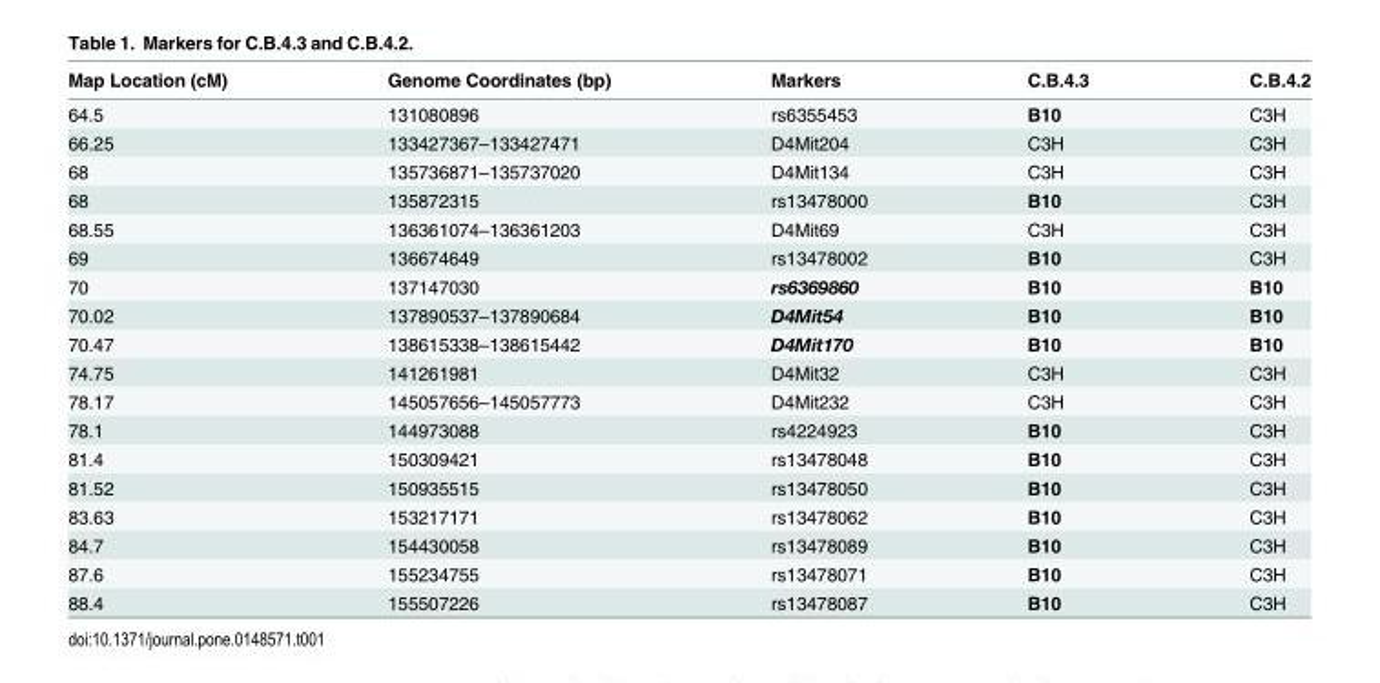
<table><thead><tr><td>Map Location (cM)</td><td>Genome Coordinates (bp)</td><td>Markers</td><td>C.B.4.3</td><td>C.B.4.2</td></tr></thead><tbody><tr><td>64.5</td><td>131080896</td><td>rs6355453</td><td>B10</td><td>C3H</td></tr><tr><td>66.25</td><td>133427367–133427471</td><td>D4Mit204</td><td>C3H</td><td>C3H</td></tr><tr><td>68</td><td>135736871–135737020</td><td>D4Mit134</td><td>C3H</td><td>C3H</td></tr><tr><td>68</td><td>135872315</td><td>rs13478000</td><td>B10</td><td>C3H</td></tr><tr><td>68.55</td><td>136361074–136361203</td><td>D4Mit69</td><td>C3H</td><td>C3H</td></tr><tr><td>69</td><td>136674649</td><td>rs13478002</td><td>B10</td><td>C3H</td></tr><tr><td>70</td><td>137147030</td><td>rs6369860</td><td>B10</td><td>B10</td></tr><tr><td>70.02</td><td>137890537–137890684</td><td>D4Mit54</td><td>B10</td><td>B10</td></tr><tr><td>70.47</td><td>138615338–138615442</td><td>D4Mit170</td><td>B10</td><td>B10</td></tr><tr><td>74.75</td><td>141261981</td><td>D4Mit32</td><td>C3H</td><td>C3H</td></tr><tr><td>78.17</td><td>145057656–145057773</td><td>D4Mit232</td><td>C3H</td><td>C3H</td></tr><tr><td>78.1</td><td>144973088</td><td>rs4224923</td><td>B10</td><td>C3H</td></tr><tr><td>81.4</td><td>150309421</td><td>rs13478048</td><td>B10</td><td>C3H</td></tr><tr><td>81.52</td><td>150935515</td><td>rs13478050</td><td>B10</td><td>C3H</td></tr><tr><td>83.63</td><td>153217171</td><td>rs13478062</td><td>B10</td><td>C3H</td></tr><tr><td>84.7</td><td>154430058</td><td>rs13478089</td><td>B10</td><td>C3H</td></tr><tr><td>87.6</td><td>155234755</td><td>rs13478071</td><td>B10</td><td>C3H</td></tr><tr><td>88.4</td><td>155507226</td><td>rs13478087</td><td>B10</td><td>C3H</td></tr></tbody></table>